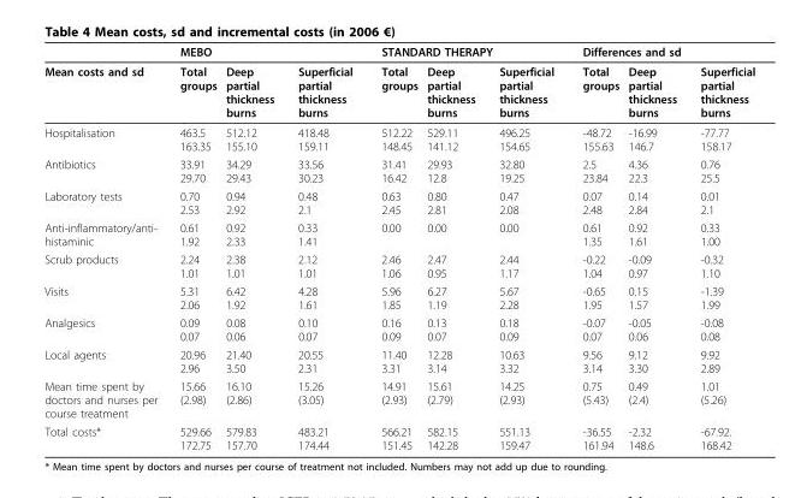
<table><thead><tr><td rowspan="2">Mean costs and sd</td><td colspan="3">MEBO</td><td colspan="3">STANDARD THERAPY</td><td colspan="3">Differences and sd</td></tr><tr><td>Total groups</td><td>Deep partial thickness burns</td><td>Superficial partial thickness burns</td><td>Total groups</td><td>Deep partial thickness burns</td><td>Superficial partial thickness burns</td><td>Total groups</td><td>Deep partial thickness burns</td><td>Superficial partial thickness burns</td></tr></thead><tbody><tr><td>Hospitalisation</td><td>463.5 163.35</td><td>512.12 155.10</td><td>418.48 159.11</td><td>512.22 148.45</td><td>529.11 141.12</td><td>496.25 154.65</td><td>-48.72 155.63</td><td>-16.99 146.7</td><td>-77.77 158.17</td></tr><tr><td>Antibiotics</td><td>33.91 29.70</td><td>34.29 29.43</td><td>33.56 30.23</td><td>31.41 16.42</td><td>29.93 12.8</td><td>32.80 19.25</td><td>2.5 23.84</td><td>4.36 22.3</td><td>0.76 25.5</td></tr><tr><td>Laboratory tests</td><td>0.70 2.53</td><td>0.94 2.92</td><td>0.48 2.1</td><td>0.63 2.45</td><td>0.80 2.81</td><td>0.47 2.08</td><td>0.07 2.48</td><td>0.14 2.84</td><td>0.01 2.1</td></tr><tr><td>Anti-inflammatory/anti- histaminic</td><td>0.61 1.92</td><td>0.92 2.33</td><td>0.33 1.41</td><td>0.00</td><td>0.00</td><td>0.00</td><td>0.61 1.35</td><td>0.92 1.61</td><td>0.33 1.00</td></tr><tr><td>Scrub products</td><td>2.24 1.01</td><td>2.38 1.01</td><td>2.12 1.01</td><td>2.46 1.06</td><td>2.47 0.95</td><td>2.44 1.17</td><td>-0.22 1.04</td><td>-0.09 0.97</td><td>-0.32 1.10</td></tr><tr><td>Visits</td><td>5.31 2.06</td><td>6.42 1.92</td><td>4.28 1.61</td><td>5.96 1.85</td><td>6.27 1.19</td><td>5.67 2.28</td><td>-0.65 1.95</td><td>0.15 1.57</td><td>-1.39 1.99</td></tr><tr><td>Analgesics</td><td>0.09 0.07</td><td>0.08 0.06</td><td>0.10 0.07</td><td>0.16 0.09</td><td>0.13 0.07</td><td>0.18 0.09</td><td>-0.07 0.07</td><td>-0.05 0.06</td><td>-0.08 0.08</td></tr><tr><td>Local agents</td><td>20.96 2.96</td><td>21.40 3.50</td><td>20.55 2.31</td><td>11.40 3.31</td><td>12.28 3.14</td><td>10.63 3.32</td><td>9.56 3.14</td><td>9.12 3.30</td><td>9.92 2.89</td></tr><tr><td>Mean time spent by doctors and nurses per course treatment</td><td>15.66 (2.98)</td><td>16.10 (2.86)</td><td>15.26 (3.05)</td><td>14.91 (2.93)</td><td>15.61 (2.79)</td><td>14.25 (2.93)</td><td>0.75 (5.43)</td><td>0.49 (2.4)</td><td>1.01 (5.26)</td></tr><tr><td>Total costs*</td><td>529.66 172.75</td><td>579.83 157.70</td><td>483.21 174.44</td><td>566.21 151.45</td><td>582.15 142.28</td><td>551.13 159.47</td><td>-36.55 161.94</td><td>-2.32 148.6</td><td>-67.92. 168.42</td></tr></tbody></table>